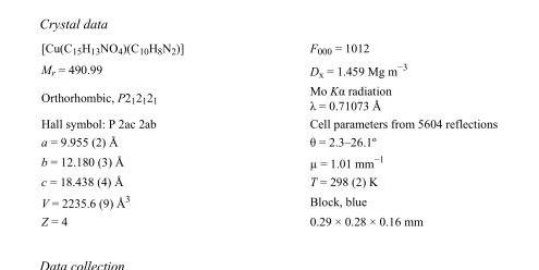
<table><tbody><tr><td>[Cu(C<sub>15</sub>H<sub>13</sub>NO<sub>4</sub>)(C<sub>10</sub>H<sub>8</sub>N<sub>2</sub>)]</td><td>F<sub>000</sub> = 1012</td></tr><tr><td>M<sub>r</sub> = 490.99</td><td>D<sub>x</sub> = 1.459 Mg m<sup>−3</sup></td></tr><tr><td>Orthorhombic, P2<sub>1</sub>2<sub>1</sub>2<sub>1</sub></td><td>Mo Kα radiation λ = 0.71073 Å</td></tr><tr><td>Hall symbol: P 2ac 2ab</td><td>Cell parameters from 5604 reflections</td></tr><tr><td>a = 9.955 (2) Å</td><td>θ = 2.3–26.1º</td></tr><tr><td>b = 12.180 (3) Å</td><td>µ = 1.01 mm<sup>−1</sup></td></tr><tr><td>c = 18.438 (4) Å</td><td>T = 298 (2) K</td></tr><tr><td>V = 2235.6 (9) Å<sup>3</sup></td><td>Block, blue</td></tr><tr><td>Z = 4</td><td>0.29 × 0.28 × 0.16 mm</td></tr></tbody></table>